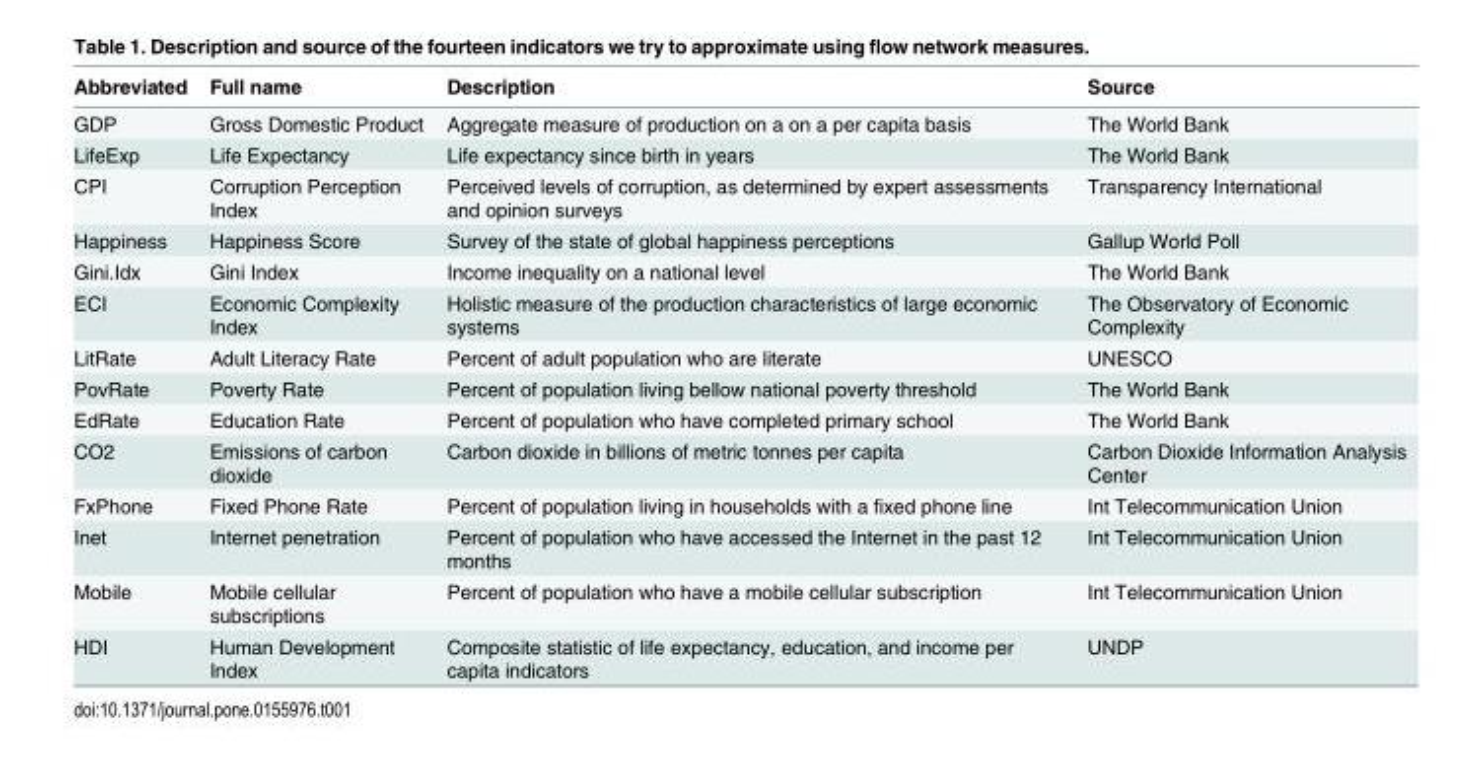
<table><thead><tr><td>Abbreviated</td><td>Full name</td><td>Description</td><td>Source</td></tr></thead><tbody><tr><td>GDP</td><td>Gross Domestic Product</td><td>Aggregate measure of production on a on a per capita basis</td><td>The World Bank</td></tr><tr><td>LifeExp</td><td>Life Expectancy</td><td>Life expectancy since birth in years</td><td>The World Bank</td></tr><tr><td>CPI</td><td>Corruption Perception Index</td><td>Perceived levels of corruption, as determined by expert assessments and opinion surveys</td><td>Transparency International</td></tr><tr><td>Happiness</td><td>Happiness Score</td><td>Survey of the state of global happiness perceptions</td><td>Gallup World Poll</td></tr><tr><td>Gini.Idx</td><td>Gini Index</td><td>Income inequality on a national level</td><td>The World Bank</td></tr><tr><td>ECI</td><td>Economic Complexity Index</td><td>Holistic measure of the production characteristics of large economic systems</td><td>The Observatory of Economic Complexity</td></tr><tr><td>LitRate</td><td>Adult Literacy Rate</td><td>Percent of adult population who are literate</td><td>UNESCO</td></tr><tr><td>PovRate</td><td>Poverty Rate</td><td>Percent of population living bellow national poverty threshold</td><td>The World Bank</td></tr><tr><td>EdRate</td><td>Education Rate</td><td>Percent of population who have completed primary school</td><td>The World Bank</td></tr><tr><td>CO2</td><td>Emissions of carbon dioxide</td><td>Carbon dioxide in billions of metric tonnes per capita</td><td>Carbon Dioxide Information Analysis Center</td></tr><tr><td>FxPhone</td><td>Fixed Phone Rate</td><td>Percent of population living in households with a fixed phone line</td><td>Int Telecommunication Union</td></tr><tr><td>Inet</td><td>Internet penetration</td><td>Percent of population who have accessed the Internet in the past 12 months</td><td>Int Telecommunication Union</td></tr><tr><td>Mobile</td><td>Mobile cellular subscriptions</td><td>Percent of population who have a mobile cellular subscription</td><td>Int Telecommunication Union</td></tr><tr><td>HDI</td><td>Human Development Index</td><td>Composite statistic of life expectancy, education, and income per capita indicators</td><td>UNDP</td></tr></tbody></table>